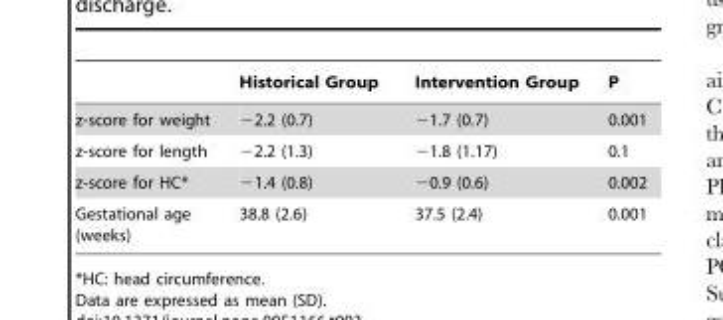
<table><thead><tr><td></td><td>Historical Group</td><td>Intervention Group</td><td>P</td></tr></thead><tbody><tr><td>z-score for weight</td><td>−2.2 (0.7)</td><td>−1.7 (0.7)</td><td>0.001</td></tr><tr><td>z-score for length</td><td>−2.2 (1.3)</td><td>−1.8 (1.17)</td><td>0.1</td></tr><tr><td>z-score for HC*</td><td>−1.4 (0.8)</td><td>−0.9 (0.6)</td><td>0.002</td></tr><tr><td>Gestational age (weeks)</td><td>38.8 (2.6)</td><td>37.5 (2.4)</td><td>0.001</td></tr></tbody></table>